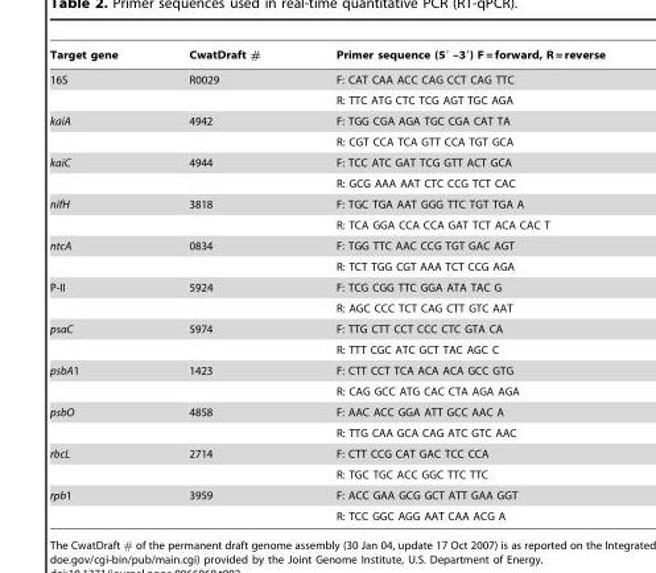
<table><thead><tr><td>Target gene</td><td>CwatDraft #</td><td>Primer sequence (5′ –3′) F = forward, R = reverse</td></tr></thead><tbody><tr><td rowspan="2">16S</td><td>R0029</td><td>F: CAT CAA ACC CAG CCT CAG TTC</td></tr><tr><td></td><td>R: TTC ATG CTC TCG AGT TGC AGA</td></tr><tr><td rowspan="2">kaiA</td><td>4942</td><td>F: TGG CGA AGA TGC CGA CAT TA</td></tr><tr><td></td><td>R: CGT CCA TCA GTT CCA TGT GCA</td></tr><tr><td rowspan="2">kaiC</td><td>4944</td><td>F: TCC ATC GAT TCG GTT ACT GCA</td></tr><tr><td></td><td>R: GCG AAA AAT CTC CCG TCT CAC</td></tr><tr><td rowspan="2">nifH</td><td>3818</td><td>F: TGC TGA AAT GGG TTC TGT TGA A</td></tr><tr><td></td><td>R: TCA GGA CCA CCA GAT TCT ACA CAC T</td></tr><tr><td rowspan="2">ntcA</td><td>0834</td><td>F: TGG TTC AAC CCG TGT GAC AGT</td></tr><tr><td></td><td>R: TCT TGG CGT AAA TCT CCG AGA</td></tr><tr><td rowspan="2">P-II</td><td>5924</td><td>F: TCG CGG TTC GGA ATA TAC G</td></tr><tr><td></td><td>R: AGC CCC TCT CAG CTT GTC AAT</td></tr><tr><td rowspan="2">psaC</td><td>5974</td><td>F: TTG CTT CCT CCC CTC GTA CA</td></tr><tr><td></td><td>R: TTT CGC ATC GCT TAC AGC C</td></tr><tr><td rowspan="2">psbA1</td><td>1423</td><td>F: CTT CCT TCA ACA ACA GCC GTG</td></tr><tr><td></td><td>R: CAG GCC ATG CAC CTA AGA AGA</td></tr><tr><td rowspan="2">psbO</td><td>4858</td><td>F: AAC ACC GGA ATT GCC AAC A</td></tr><tr><td></td><td>R: TTG CAA GCA CAG ATC GTC AAC</td></tr><tr><td rowspan="2">rbcL</td><td>2714</td><td>F: CTT CCG CAT GAC TCC CCA</td></tr><tr><td></td><td>R: TGC TGC ACC GGC TTC TTC</td></tr><tr><td rowspan="2">rpb1</td><td>3959</td><td>F: ACC GAA GCG GCT ATT GAA GGT</td></tr><tr><td></td><td>R: TCC GGC AGG AAT CAA ACG A</td></tr></tbody></table>